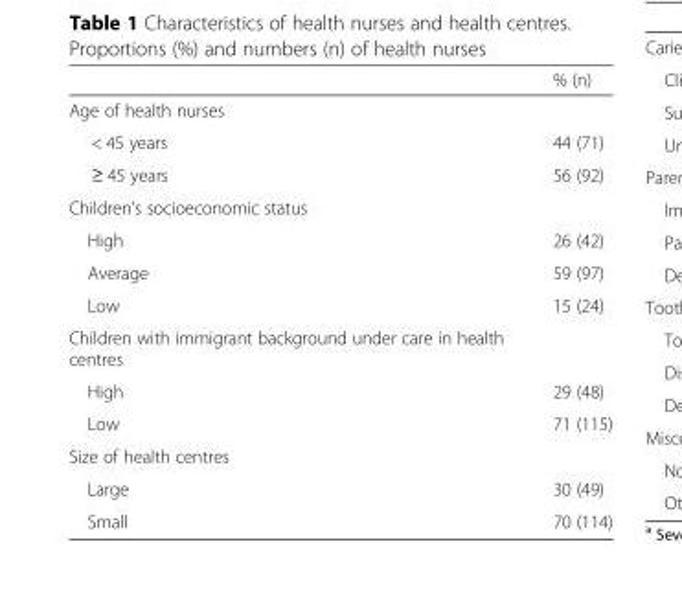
<table><thead><tr><td></td><td>% (n)</td></tr></thead><tbody><tr><td colspan="2">Age of health nurses</td></tr><tr><td>&lt; 45 years</td><td>44 (71)</td></tr><tr><td>≥ 45 years</td><td>56 (92)</td></tr><tr><td colspan="2">Children’s socioeconomic status</td></tr><tr><td>High</td><td>26 (42)</td></tr><tr><td>Average</td><td>59 (97)</td></tr><tr><td>Low</td><td>15 (24)</td></tr><tr><td colspan="2">Children with immigrant background under care in health centres</td></tr><tr><td>High</td><td>29 (48)</td></tr><tr><td>Low</td><td>71 (115)</td></tr><tr><td colspan="2">Size of health centres</td></tr><tr><td>Large</td><td>30 (49)</td></tr><tr><td>Small</td><td>70 (114)</td></tr></tbody></table>